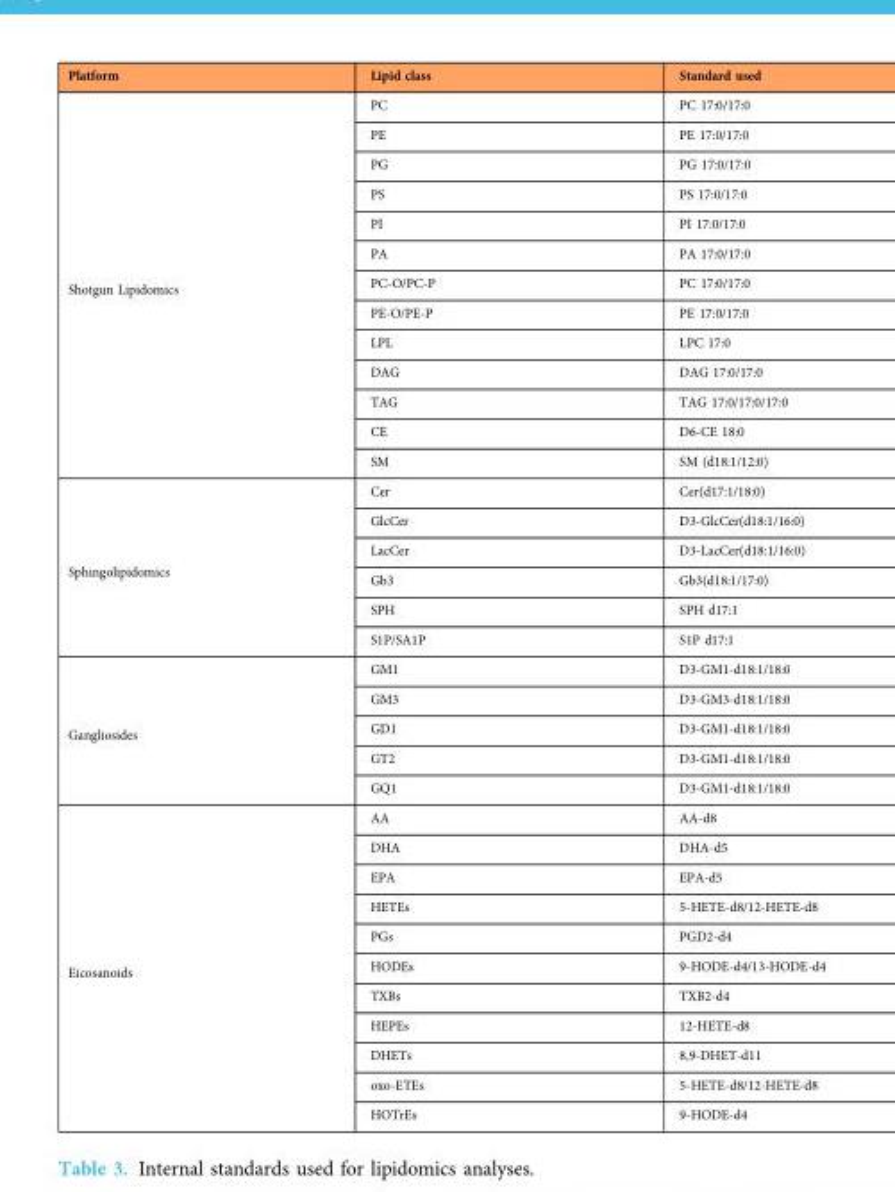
<table><thead><tr><td>Platform</td><td>Lipid class</td><td>Standard used</td></tr></thead><tbody><tr><td rowspan="13">Shotgun Lipidomics</td><td>PC</td><td>PC 17:0/17:0</td></tr><tr><td>PE</td><td>PE 17:0/17:0</td></tr><tr><td>PG</td><td>PG 17:0/17:0</td></tr><tr><td>PS</td><td>PS 17:0/17:0</td></tr><tr><td>PI</td><td>PI 17:0/17:0</td></tr><tr><td>PA</td><td>PA 17:0/17:0</td></tr><tr><td>PC-O/PC-P</td><td>PC 17:0/17:0</td></tr><tr><td>PE-O/PE-P</td><td>PE 17:0/17:0</td></tr><tr><td>LPL</td><td>LPC 17:0</td></tr><tr><td>DAG</td><td>DAG 17:0/17:0</td></tr><tr><td>TAG</td><td>TAG 17:0/17:0/17:0</td></tr><tr><td>CE</td><td>D6-CE 18:0</td></tr><tr><td>SM</td><td>SM (d18:1/12:0)</td></tr><tr><td rowspan="6">Sphingolipidomics</td><td>Cer</td><td>Cer(d17:1/18:0)</td></tr><tr><td>GlcCer</td><td>D3-GlcCer(d18:1/16:0)</td></tr><tr><td>LacCer</td><td>D3-LacCer(d18:1/16:0)</td></tr><tr><td>Gb3</td><td>Gb3(d18:1/17:0)</td></tr><tr><td>SPH</td><td>SPH d17:1</td></tr><tr><td>S1P/SA1P</td><td>S1P d17:1</td></tr><tr><td rowspan="5">Gangliosides</td><td>GM1</td><td>D3-GM1-d18:1/18:0</td></tr><tr><td>GM3</td><td>D3-GM3-d18:1/18:0</td></tr><tr><td>GD1</td><td>D3-GM1-d18:1/18:0</td></tr><tr><td>GT2</td><td>D3-GM1-d18:1/18:0</td></tr><tr><td>GQ1</td><td>D3-GM1-d18:1/18:0</td></tr><tr><td rowspan="11">Eicosanoids</td><td>AA</td><td>AA-d8</td></tr><tr><td>DHA</td><td>DHA-d5</td></tr><tr><td>EPA</td><td>EPA-d5</td></tr><tr><td>HETEs</td><td>5-HETE-d8/12-HETE-d8</td></tr><tr><td>PGs</td><td>PGD2-d4</td></tr><tr><td>HODEs</td><td>9-HODE-d4/13-HODE-d4</td></tr><tr><td>TXBs</td><td>TXB2-d4</td></tr><tr><td>HEPEs</td><td>12-HETE-d8</td></tr><tr><td>DHETs</td><td>8,9-DHET-d11</td></tr><tr><td>oxo-ETEs</td><td>5-HETE-d8/12-HETE-d8</td></tr><tr><td>HOTrEs</td><td>9-HODE-d4</td></tr></tbody></table>